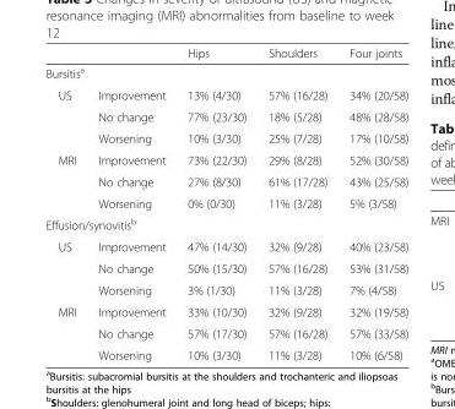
<table><thead><tr><td></td><td></td><td>Hips</td><td>Shoulders</td><td>Four joints</td></tr></thead><tbody><tr><td colspan="5">Bursitis<sup>a</sup></td></tr><tr><td rowspan="3">US</td><td>Improvement</td><td>13% (4/30)</td><td>57% (16/28)</td><td>34% (20/58)</td></tr><tr><td>No change</td><td>77% (23/30)</td><td>18% (5/28)</td><td>48% (28/58)</td></tr><tr><td>Worsening</td><td>10% (3/30)</td><td>25% (7/28)</td><td>17% (10/58)</td></tr><tr><td rowspan="3">MRI</td><td>Improvement</td><td>73% (22/30)</td><td>29% (8/28)</td><td>52% (30/58)</td></tr><tr><td>No change</td><td>27% (8/30)</td><td>61% (17/28)</td><td>43% (25/58)</td></tr><tr><td>Worsening</td><td>0% (0/30)</td><td>11% (3/28)</td><td>5% (3/58)</td></tr><tr><td colspan="5">Effusion/synovitis<sup>b</sup></td></tr><tr><td rowspan="3">US</td><td>Improvement</td><td>47% (14/30)</td><td>32% (9/28)</td><td>40% (23/58)</td></tr><tr><td>No change</td><td>50% (15/30)</td><td>57% (16/28)</td><td>53% (31/58)</td></tr><tr><td>Worsening</td><td>3% (1/30)</td><td>11% (3/28)</td><td>7% (4/58)</td></tr><tr><td rowspan="3">MRI</td><td>Improvement</td><td>33% (10/30)</td><td>32% (9/28)</td><td>32% (19/58)</td></tr><tr><td>No change</td><td>57% (17/30)</td><td>57% (16/28)</td><td>57% (33/58)</td></tr><tr><td>Worsening</td><td>10% (3/30)</td><td>11% (3/28)</td><td>10% (6/58)</td></tr></tbody></table>